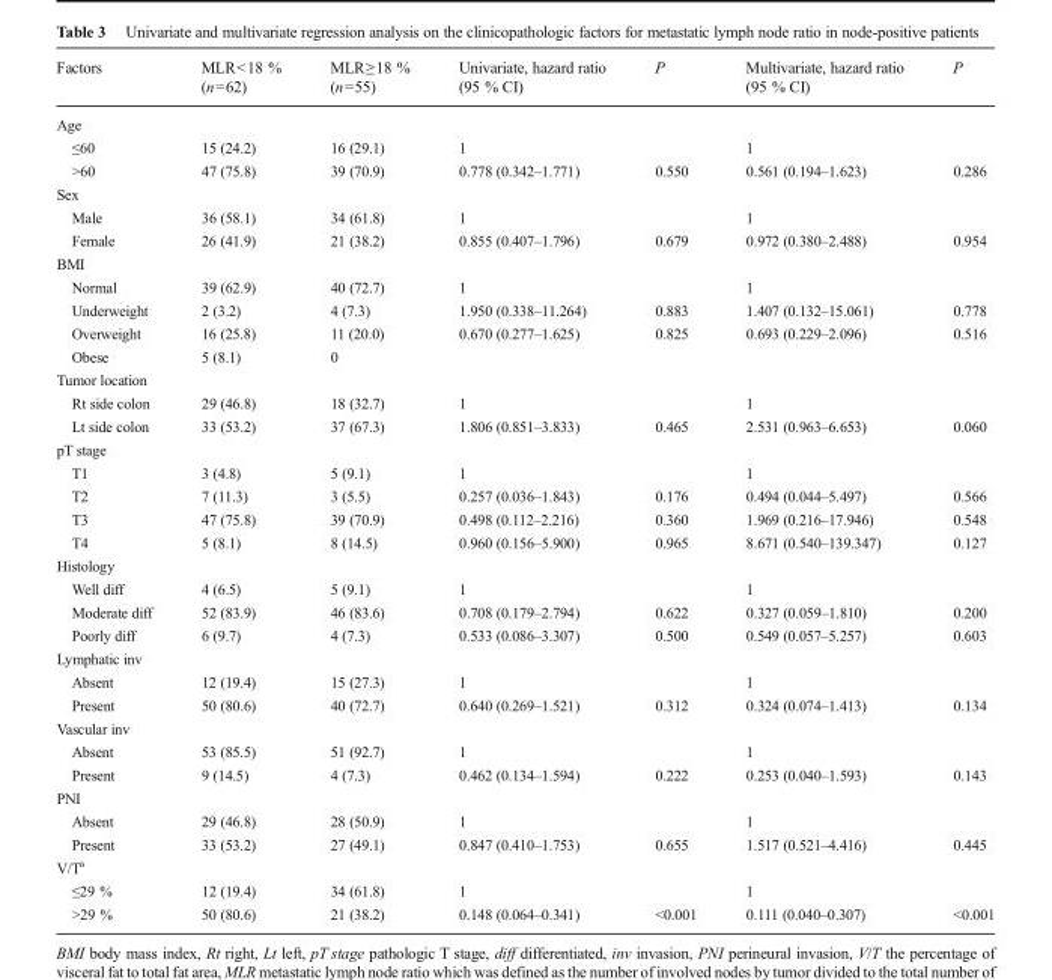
<table><thead><tr><td>Factors</td><td>MLR&lt;18 % (n=62)</td><td>MLR≥18 % (n=55)</td><td>Univariate, hazard ratio (95 % CI)</td><td>P</td><td>Multivariate, hazard ratio (95 % CI)</td><td>P</td></tr></thead><tbody><tr><td colspan="7">Age</td></tr><tr><td>≤60</td><td>15 (24.2)</td><td>16 (29.1)</td><td>1</td><td></td><td>1</td><td></td></tr><tr><td>&gt;60</td><td>47 (75.8)</td><td>39 (70.9)</td><td>0.778 (0.342–1.771)</td><td>0.550</td><td>0.561 (0.194–1.623)</td><td>0.286</td></tr><tr><td colspan="7">Sex</td></tr><tr><td>Male</td><td>36 (58.1)</td><td>34 (61.8)</td><td>1</td><td></td><td>1</td><td></td></tr><tr><td>Female</td><td>26 (41.9)</td><td>21 (38.2)</td><td>0.855 (0.407–1.796)</td><td>0.679</td><td>0.972 (0.380–2.488)</td><td>0.954</td></tr><tr><td colspan="7">BMI</td></tr><tr><td>Normal</td><td>39 (62.9)</td><td>40 (72.7)</td><td>1</td><td></td><td>1</td><td></td></tr><tr><td>Underweight</td><td>2 (3.2)</td><td>4 (7.3)</td><td>1.950 (0.338–11.264)</td><td>0.883</td><td>1.407 (0.132–15.061)</td><td>0.778</td></tr><tr><td>Overweight</td><td>16 (25.8)</td><td>11 (20.0)</td><td>0.670 (0.277–1.625)</td><td>0.825</td><td>0.693 (0.229–2.096)</td><td>0.516</td></tr><tr><td>Obese</td><td>5 (8.1)</td><td>0</td><td></td><td></td><td></td><td></td></tr><tr><td colspan="7">Tumor location</td></tr><tr><td>Rt side colon</td><td>29 (46.8)</td><td>18 (32.7)</td><td>1</td><td></td><td>1</td><td></td></tr><tr><td>Lt side colon</td><td>33 (53.2)</td><td>37 (67.3)</td><td>1.806 (0.851–3.833)</td><td>0.465</td><td>2.531 (0.963–6.653)</td><td>0.060</td></tr><tr><td colspan="7">pT stage</td></tr><tr><td>T1</td><td>3 (4.8)</td><td>5 (9.1)</td><td>1</td><td></td><td>1</td><td></td></tr><tr><td>T2</td><td>7 (11.3)</td><td>3 (5.5)</td><td>0.257 (0.036–1.843)</td><td>0.176</td><td>0.494 (0.044–5.497)</td><td>0.566</td></tr><tr><td>T3</td><td>47 (75.8)</td><td>39 (70.9)</td><td>0.498 (0.112–2.216)</td><td>0.360</td><td>1.969 (0.216–17.946)</td><td>0.548</td></tr><tr><td>T4</td><td>5 (8.1)</td><td>8 (14.5)</td><td>0.960 (0.156–5.900)</td><td>0.965</td><td>8.671 (0.540–139.347)</td><td>0.127</td></tr><tr><td colspan="7">Histology</td></tr><tr><td>Well diff</td><td>4 (6.5)</td><td>5 (9.1)</td><td>1</td><td></td><td>1</td><td></td></tr><tr><td>Moderate diff</td><td>52 (83.9)</td><td>46 (83.6)</td><td>0.708 (0.179–2.794)</td><td>0.622</td><td>0.327 (0.059–1.810)</td><td>0.200</td></tr><tr><td>Poorly diff</td><td>6 (9.7)</td><td>4 (7.3)</td><td>0.533 (0.086–3.307)</td><td>0.500</td><td>0.549 (0.057–5.257)</td><td>0.603</td></tr><tr><td colspan="7">Lymphatic inv</td></tr><tr><td>Absent</td><td>12 (19.4)</td><td>15 (27.3)</td><td>1</td><td></td><td>1</td><td></td></tr><tr><td>Present</td><td>50 (80.6)</td><td>40 (72.7)</td><td>0.640 (0.269–1.521)</td><td>0.312</td><td>0.324 (0.074–1.413)</td><td>0.134</td></tr><tr><td colspan="7">Vascular inv</td></tr><tr><td>Absent</td><td>53 (85.5)</td><td>51 (92.7)</td><td>1</td><td></td><td>1</td><td></td></tr><tr><td>Present</td><td>9 (14.5)</td><td>4 (7.3)</td><td>0.462 (0.134–1.594)</td><td>0.222</td><td>0.253 (0.040–1.593)</td><td>0.143</td></tr><tr><td colspan="7">PNI</td></tr><tr><td>Absent</td><td>29 (46.8)</td><td>28 (50.9)</td><td>1</td><td></td><td>1</td><td></td></tr><tr><td>Present</td><td>33 (53.2)</td><td>27 (49.1)</td><td>0.847 (0.410–1.753)</td><td>0.655</td><td>1.517 (0.521–4.416)</td><td>0.445</td></tr><tr><td colspan="7">V/T<sup>a</sup></td></tr><tr><td>≤29 %</td><td>12 (19.4)</td><td>34 (61.8)</td><td>1</td><td></td><td>1</td><td></td></tr><tr><td>&gt;29 %</td><td>50 (80.6)</td><td>21 (38.2)</td><td>0.148 (0.064–0.341)</td><td>&lt;0.001</td><td>0.111 (0.040–0.307)</td><td>&lt;0.001</td></tr></tbody></table>